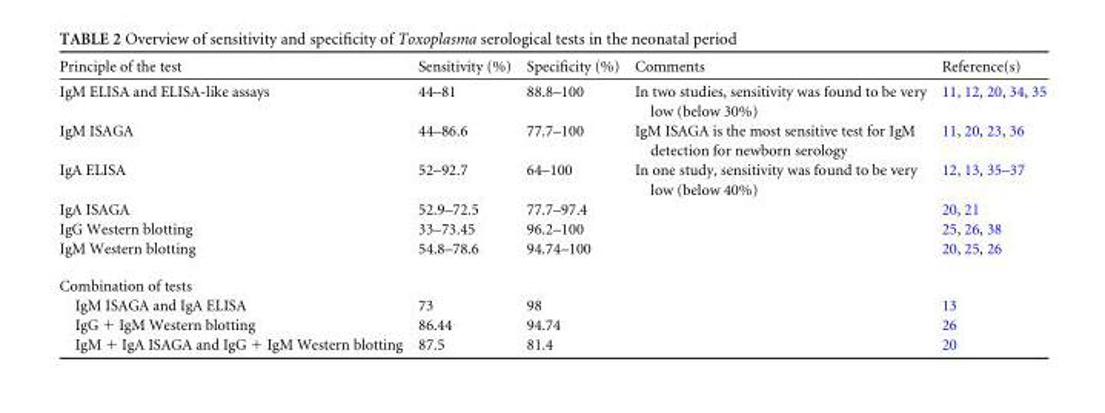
<table><thead><tr><td>Principle of the test</td><td>Sensitivity (%)</td><td>Specificity (%)</td><td>Comments</td><td>Reference(s)</td></tr></thead><tbody><tr><td>IgM ELISA and ELISA-like assays</td><td>44–81</td><td>88.8–100</td><td>In two studies, sensitivity was found to be very low (below 30%)</td><td>11, 12, 20, 34, 35</td></tr><tr><td>IgM ISAGA</td><td>44–86.6</td><td>77.7–100</td><td>IgM ISAGA is the most sensitive test for IgM detection for newborn serology</td><td>11, 20, 23, 36</td></tr><tr><td>IgA ELISA</td><td>52–92.7</td><td>64–100</td><td>In one study, sensitivity was found to be very low (below 40%)</td><td>12, 13, 35–37</td></tr><tr><td>IgA ISAGA</td><td>52.9–72.5</td><td>77.7–97.4</td><td></td><td>20, 21</td></tr><tr><td>IgG Western blotting</td><td>33–73.45</td><td>96.2–100</td><td></td><td>25, 26, 38</td></tr><tr><td>IgM Western blotting</td><td>54.8–78.6</td><td>94.74–100</td><td></td><td>20, 25, 26</td></tr><tr><td colspan="5">Combination of tests</td></tr><tr><td>IgM ISAGA and IgA ELISA</td><td>73</td><td>98</td><td></td><td>13</td></tr><tr><td>IgG + IgM Western blotting</td><td>86.44</td><td>94.74</td><td></td><td>26</td></tr><tr><td>IgM + IgA ISAGA and IgG + IgM Western blotting</td><td>87.5</td><td>81.4</td><td></td><td>20</td></tr></tbody></table>